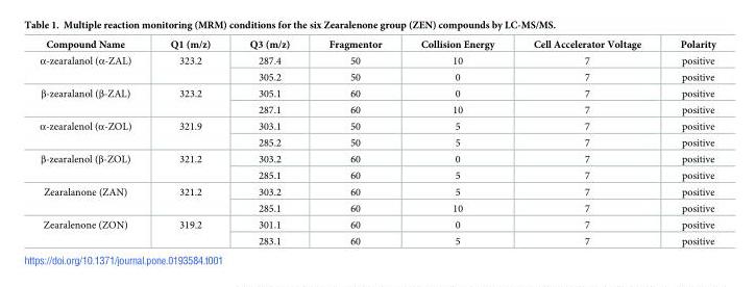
<table><thead><tr><td>Compound Name</td><td>Q1 (m/z)</td><td>Q3 (m/z)</td><td>Fragmentor</td><td>Collision Energy</td><td>Cell Accelerator Voltage</td><td>Polarity</td></tr></thead><tbody><tr><td rowspan="2">α-zearalanol (α-ZAL)</td><td rowspan="2">323.2</td><td>287.4</td><td>50</td><td>10</td><td>7</td><td>positive</td></tr><tr><td>305.2</td><td>50</td><td>0</td><td>7</td><td>positive</td></tr><tr><td rowspan="2">β-zearalanol (β-ZAL)</td><td rowspan="2">323.2</td><td>305.1</td><td>60</td><td>0</td><td>7</td><td>positive</td></tr><tr><td>287.1</td><td>60</td><td>10</td><td>7</td><td>positive</td></tr><tr><td rowspan="2">α-zearalenol (α-ZOL)</td><td rowspan="2">321.9</td><td>303.1</td><td>50</td><td>5</td><td>7</td><td>positive</td></tr><tr><td>285.2</td><td>50</td><td>5</td><td>7</td><td>positive</td></tr><tr><td rowspan="2">β-zearalenol (β-ZOL)</td><td rowspan="2">321.2</td><td>303.2</td><td>60</td><td>0</td><td>7</td><td>positive</td></tr><tr><td>285.1</td><td>60</td><td>5</td><td>7</td><td>positive</td></tr><tr><td rowspan="2">Zearalanone (ZAN)</td><td rowspan="2">321.2</td><td>303.2</td><td>60</td><td>5</td><td>7</td><td>positive</td></tr><tr><td>285.1</td><td>60</td><td>10</td><td>7</td><td>positive</td></tr><tr><td rowspan="2">Zearalenone (ZON)</td><td rowspan="2">319.2</td><td>301.1</td><td>60</td><td>0</td><td>7</td><td>positive</td></tr><tr><td>283.1</td><td>60</td><td>5</td><td>7</td><td>positive</td></tr></tbody></table>